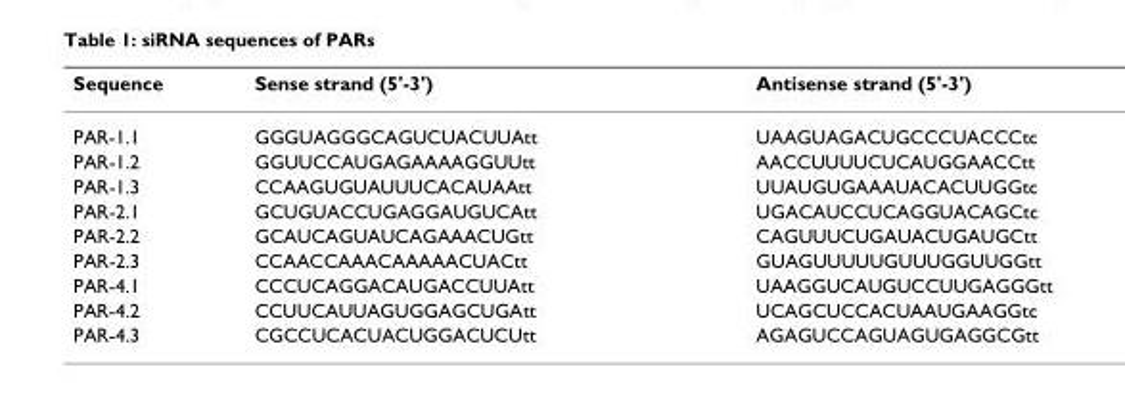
<table><thead><tr><td>Sequence</td><td>Sense strand (5&#x27;-3&#x27;)</td><td>Antisense strand (5&#x27;-3&#x27;)</td></tr></thead><tbody><tr><td>PAR-1.1</td><td>GGGUAGGGCAGUCUACUUAtt</td><td>UAAGUAGACUGCCCUACCCtc</td></tr><tr><td>PAR-1.2</td><td>GGUUCCAUGAGAAAAGGUUtt</td><td>AACCUUUUCUCAUGGAACCtt</td></tr><tr><td>PAR-1.3</td><td>CCAAGUGUAUUUCACAUAAtt</td><td>UUAUGUGAAAUACACUUGGtc</td></tr><tr><td>PAR-2.1</td><td>GCUGUACCUGAGGAUGUCAtt</td><td>UGACAUCCUCAGGUACAGCtc</td></tr><tr><td>PAR-2.2</td><td>GCAUCAGUAUCAGAAACUGtt</td><td>CAGUUUCUGAUACUGAUGCtt</td></tr><tr><td>PAR-2.3</td><td>CCAACCAAACAAAAACUACtt</td><td>GUAGUUUUUGUUUGGUUGGtt</td></tr><tr><td>PAR-4.1</td><td>CCCUCAGGACAUGACCUUAtt</td><td>UAAGGUCAUGUCCUUGAGGGtt</td></tr><tr><td>PAR-4.2</td><td>CCUUCAUUAGUGGAGCUGAtt</td><td>UCAGCUCCACUAAUGAAGGtc</td></tr><tr><td>PAR-4.3</td><td>CGCCUCACUACUGGACUCUtt</td><td>AGAGUCCAGUAGUGAGGCGtt</td></tr></tbody></table>